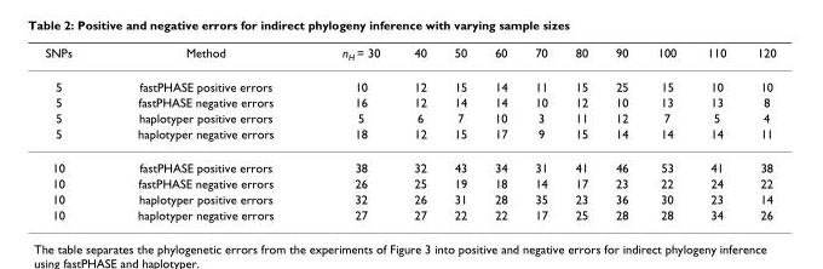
<table><thead><tr><td>SNPs</td><td>Method</td><td>n<sub>H</sub> = 30</td><td>40</td><td>50</td><td>60</td><td>70</td><td>80</td><td>90</td><td>100</td><td>110</td><td>120</td></tr></thead><tbody><tr><td>5</td><td>fastPHASE positive errors</td><td>10</td><td>12</td><td>15</td><td>14</td><td>11</td><td>15</td><td>25</td><td>15</td><td>10</td><td>10</td></tr><tr><td>5</td><td>fastPHASE negative errors</td><td>16</td><td>12</td><td>14</td><td>14</td><td>10</td><td>12</td><td>10</td><td>13</td><td>13</td><td>8</td></tr><tr><td>5</td><td>haplotyper positive errors</td><td>5</td><td>6</td><td>7</td><td>10</td><td>3</td><td>11</td><td>12</td><td>7</td><td>5</td><td>4</td></tr><tr><td>5</td><td>haplotyper negative errors</td><td>18</td><td>12</td><td>15</td><td>17</td><td>9</td><td>15</td><td>14</td><td>14</td><td>14</td><td>11</td></tr><tr><td>10</td><td>fastPHASE positive errors</td><td>38</td><td>32</td><td>43</td><td>34</td><td>31</td><td>41</td><td>46</td><td>53</td><td>41</td><td>38</td></tr><tr><td>10</td><td>fastPHASE negative errors</td><td>26</td><td>25</td><td>19</td><td>18</td><td>14</td><td>17</td><td>23</td><td>22</td><td>24</td><td>22</td></tr><tr><td>10</td><td>haplotyper positive errors</td><td>32</td><td>26</td><td>31</td><td>28</td><td>35</td><td>23</td><td>36</td><td>30</td><td>23</td><td>14</td></tr><tr><td>10</td><td>haplotyper negative errors</td><td>27</td><td>27</td><td>22</td><td>22</td><td>17</td><td>25</td><td>28</td><td>28</td><td>34</td><td>26</td></tr></tbody></table>